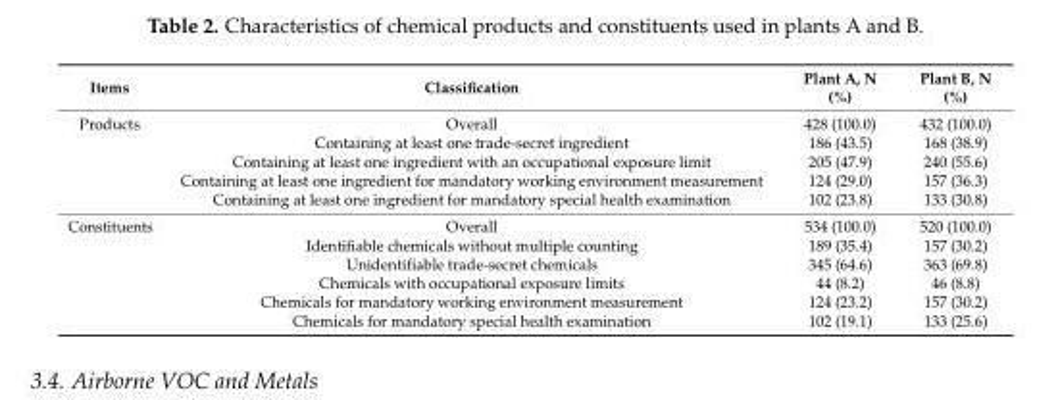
<table><thead><tr><td>Items</td><td>Classification</td><td>Plant A, N (%)</td><td>Plant B, N (%)</td></tr></thead><tbody><tr><td rowspan="5">Products</td><td>Overall</td><td>428 (100.0)</td><td>432 (100.0)</td></tr><tr><td>Containing at least one trade-secret ingredient</td><td>186 (43.5)</td><td>168 (38.9)</td></tr><tr><td>Containing at least one ingredient with an occupational exposure limit</td><td>205 (47.9)</td><td>240 (55.6)</td></tr><tr><td>Containing at least one ingredient for mandatory working environment measurement</td><td>124 (29.0)</td><td>157 (36.3)</td></tr><tr><td>Containing at least one ingredient for mandatory special health examination</td><td>102 (23.8)</td><td>133 (30.8)</td></tr><tr><td rowspan="6">Constituents</td><td>Overall</td><td>534 (100.0)</td><td>520 (100.0)</td></tr><tr><td>Identifiable chemicals without multiple counting</td><td>189 (35.4)</td><td>157 (30.2)</td></tr><tr><td>Unidentifiable trade-secret chemicals</td><td>345 (64.6)</td><td>363 (69.8)</td></tr><tr><td>Chemicals with occupational exposure limits</td><td>44 (8.2)</td><td>46 (8.8)</td></tr><tr><td>Chemicals for mandatory working environment measurement</td><td>124 (23.2)</td><td>157 (30.2)</td></tr><tr><td>Chemicals for mandatory special health examination</td><td>102 (19.1)</td><td>133 (25.6)</td></tr></tbody></table>